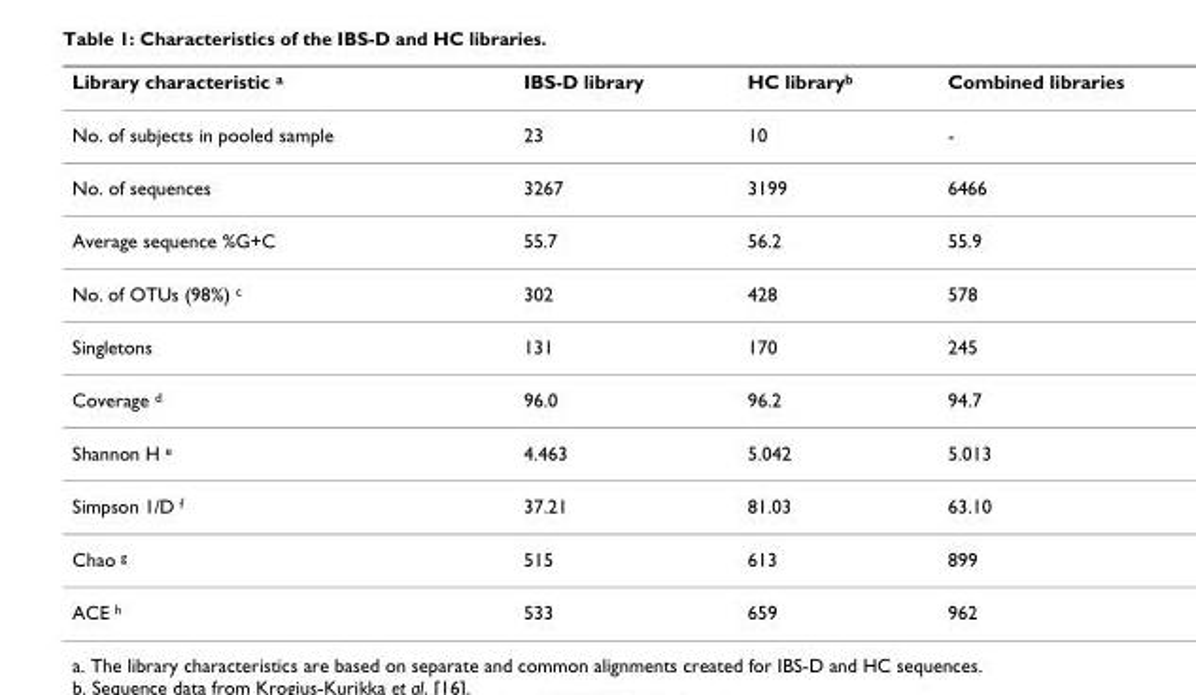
<table><thead><tr><td>Library characteristic <sup>a</sup></td><td>IBS-D library</td><td>HC library<sup>b</sup></td><td>Combined libraries</td></tr></thead><tbody><tr><td>No. of subjects in pooled sample</td><td>23</td><td>10</td><td>-</td></tr><tr><td>No. of sequences</td><td>3267</td><td>3199</td><td>6466</td></tr><tr><td>Average sequence %G+C</td><td>55.7</td><td>56.2</td><td>55.9</td></tr><tr><td>No. of OTUs (98%) <sup>c</sup></td><td>302</td><td>428</td><td>578</td></tr><tr><td>Singletons</td><td>131</td><td>170</td><td>245</td></tr><tr><td>Coverage <sup>d</sup></td><td>96.0</td><td>96.2</td><td>94.7</td></tr><tr><td>Shannon H <sup>e</sup></td><td>4.463</td><td>5.042</td><td>5.013</td></tr><tr><td>Simpson 1/D <sup>f</sup></td><td>37.21</td><td>81.03</td><td>63.10</td></tr><tr><td>Chao <sup>g</sup></td><td>515</td><td>613</td><td>899</td></tr><tr><td>ACE <sup>h</sup></td><td>533</td><td>659</td><td>962</td></tr></tbody></table>